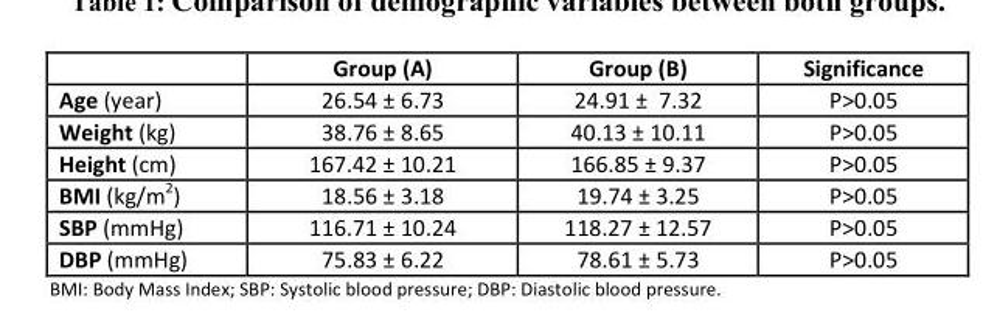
<table><thead><tr><td></td><td>Group (A)</td><td>Group (B)</td><td>Significance</td></tr></thead><tbody><tr><td>Age (year)</td><td>26.54 ± 6.73</td><td>24.91 ± 7.32</td><td>P&gt;0.05</td></tr><tr><td>Weight (kg)</td><td>38.76 ± 8.65</td><td>40.13 ± 10.11</td><td>P&gt;0.05</td></tr><tr><td>Height (cm)</td><td>167.42 ± 10.21</td><td>166.85 ± 9.37</td><td>P&gt;0.05</td></tr><tr><td>BMI (kg/m<sup>2</sup>)</td><td>18.56 ± 3.18</td><td>19.74 ± 3.25</td><td>P&gt;0.05</td></tr><tr><td>SBP (mmHg)</td><td>116.71 ± 10.24</td><td>118.27 ± 12.57</td><td>P&gt;0.05</td></tr><tr><td>DBP (mmHg)</td><td>75.83 ± 6.22</td><td>78.61 ± 5.73</td><td>P&gt;0.05</td></tr></tbody></table>